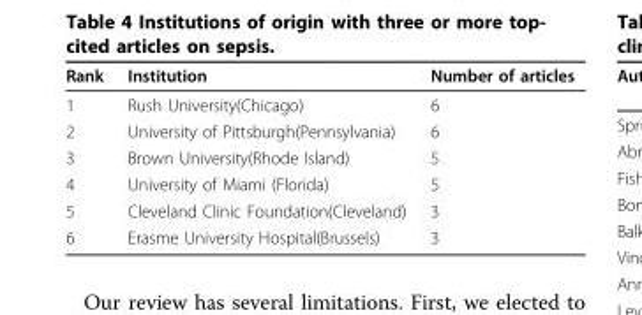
<table><thead><tr><td>Rank</td><td>Institution</td><td>Number of articles</td></tr></thead><tbody><tr><td>1</td><td>Rush University(Chicago)</td><td>6</td></tr><tr><td>2</td><td>University of Pittsburgh(Pennsylvania)</td><td>6</td></tr><tr><td>3</td><td>Brown University(Rhode Island)</td><td>5</td></tr><tr><td>4</td><td>University of Miami (Florida)</td><td>5</td></tr><tr><td>5</td><td>Cleveland Clinic Foundation(Cleveland)</td><td>3</td></tr><tr><td>6</td><td>Erasme University Hospital(Brussels)</td><td>3</td></tr></tbody></table>